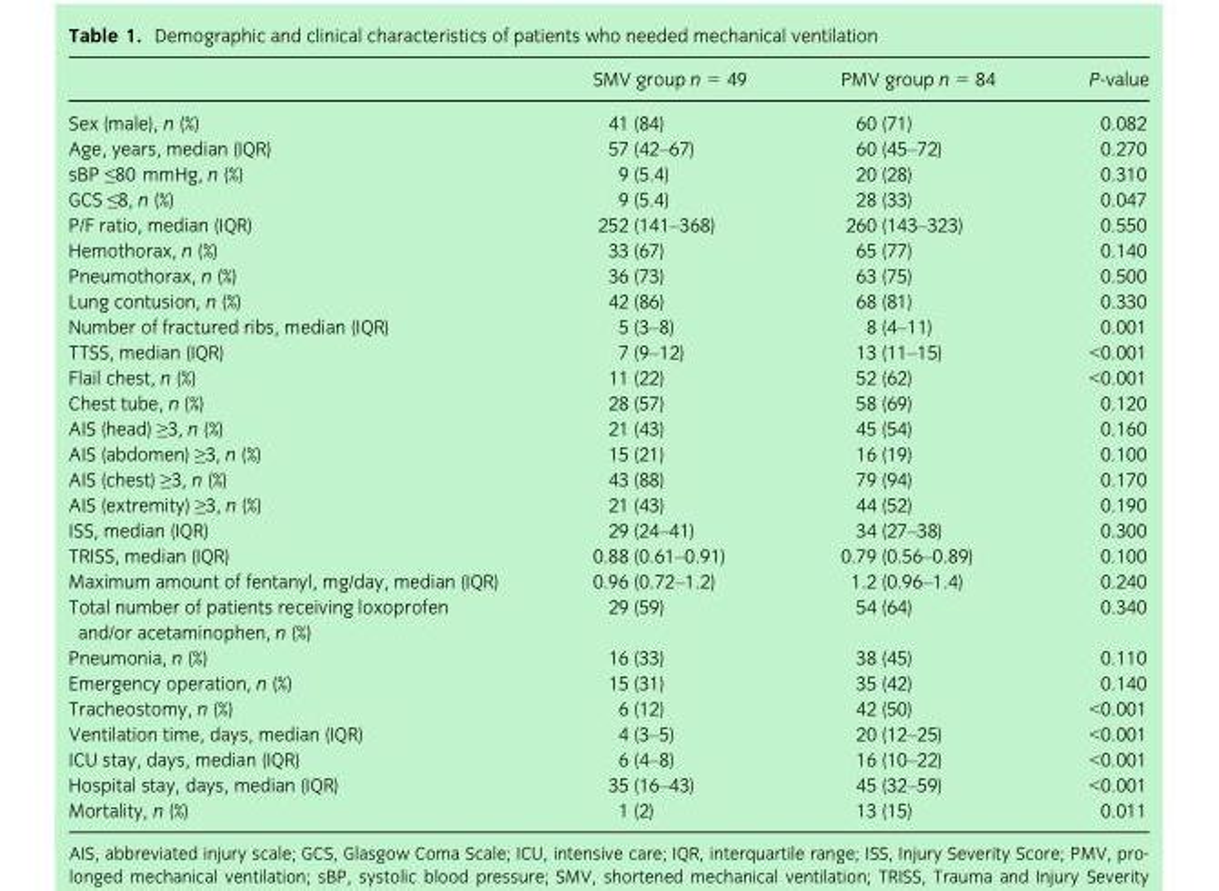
<table><thead><tr><td></td><td>SMV group n = 49</td><td>PMV group n = 84</td><td>P-value</td></tr></thead><tbody><tr><td>Sex (male), n (%)</td><td>41 (84)</td><td>60 (71)</td><td>0.082</td></tr><tr><td>Age, years, median (IQR)</td><td>57 (42–67)</td><td>60 (45–72)</td><td>0.270</td></tr><tr><td>sBP ≤80 mmHg, n (%)</td><td>9 (5.4)</td><td>20 (28)</td><td>0.310</td></tr><tr><td>GCS ≤8, n (%)</td><td>9 (5.4)</td><td>28 (33)</td><td>0.047</td></tr><tr><td>P/F ratio, median (IQR)</td><td>252 (141–368)</td><td>260 (143–323)</td><td>0.550</td></tr><tr><td>Hemothorax, n (%)</td><td>33 (67)</td><td>65 (77)</td><td>0.140</td></tr><tr><td>Pneumothorax, n (%)</td><td>36 (73)</td><td>63 (75)</td><td>0.500</td></tr><tr><td>Lung contusion, n (%)</td><td>42 (86)</td><td>68 (81)</td><td>0.330</td></tr><tr><td>Number of fractured ribs, median (IQR)</td><td>5 (3–8)</td><td>8 (4–11)</td><td>0.001</td></tr><tr><td>TTSS, median (IQR)</td><td>7 (9–12)</td><td>13 (11–15)</td><td>&lt;0.001</td></tr><tr><td>Flail chest, n (%)</td><td>11 (22)</td><td>52 (62)</td><td>&lt;0.001</td></tr><tr><td>Chest tube, n (%)</td><td>28 (57)</td><td>58 (69)</td><td>0.120</td></tr><tr><td>AIS (head) ≥3, n (%)</td><td>21 (43)</td><td>45 (54)</td><td>0.160</td></tr><tr><td>AIS (abdomen) ≥3, n (%)</td><td>15 (21)</td><td>16 (19)</td><td>0.100</td></tr><tr><td>AIS (chest) ≥3, n (%)</td><td>43 (88)</td><td>79 (94)</td><td>0.170</td></tr><tr><td>AIS (extremity) ≥3, n (%)</td><td>21 (43)</td><td>44 (52)</td><td>0.190</td></tr><tr><td>ISS, median (IQR)</td><td>29 (24–41)</td><td>34 (27–38)</td><td>0.300</td></tr><tr><td>TRISS, median (IQR)</td><td>0.88 (0.61–0.91)</td><td>0.79 (0.56–0.89)</td><td>0.100</td></tr><tr><td>Maximum amount of fentanyl, mg/day, median (IQR)</td><td>0.96 (0.72–1.2)</td><td>1.2 (0.96–1.4)</td><td>0.240</td></tr><tr><td>Total number of patients receiving loxoprofen and/or acetaminophen, n (%)</td><td>29 (59)</td><td>54 (64)</td><td>0.340</td></tr><tr><td>Pneumonia, n (%)</td><td>16 (33)</td><td>38 (45)</td><td>0.110</td></tr><tr><td>Emergency operation, n (%)</td><td>15 (31)</td><td>35 (42)</td><td>0.140</td></tr><tr><td>Tracheostomy, n (%)</td><td>6 (12)</td><td>42 (50)</td><td>&lt;0.001</td></tr><tr><td>Ventilation time, days, median (IQR)</td><td>4 (3–5)</td><td>20 (12–25)</td><td>&lt;0.001</td></tr><tr><td>ICU stay, days, median (IQR)</td><td>6 (4–8)</td><td>16 (10–22)</td><td>&lt;0.001</td></tr><tr><td>Hospital stay, days, median (IQR)</td><td>35 (16–43)</td><td>45 (32–59)</td><td>&lt;0.001</td></tr><tr><td>Mortality, n (%)</td><td>1 (2)</td><td>13 (15)</td><td>0.011</td></tr></tbody></table>